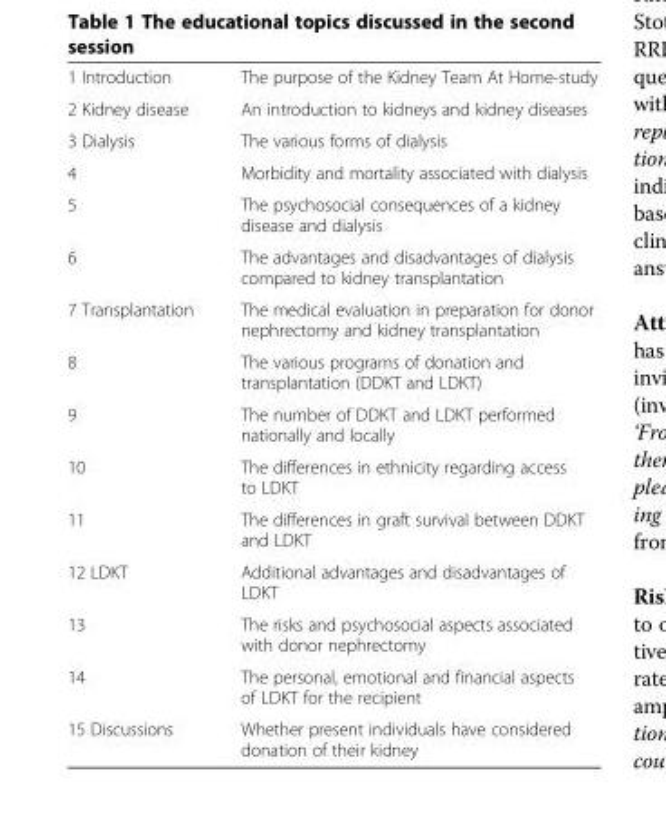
<table><tbody><tr><td>1 Introduction</td><td>The purpose of the Kidney Team At Home-study</td></tr><tr><td>2 Kidney disease</td><td>An introduction to kidneys and kidney diseases</td></tr><tr><td>3 Dialysis</td><td>The various forms of dialysis</td></tr><tr><td>4</td><td>Morbidity and mortality associated with dialysis</td></tr><tr><td>5</td><td>The psychosocial consequences of a kidney disease and dialysis</td></tr><tr><td>6</td><td>The advantages and disadvantages of dialysis compared to kidney transplantation</td></tr><tr><td>7 Transplantation</td><td>The medical evaluation in preparation for donor nephrectomy and kidney transplantation</td></tr><tr><td>8</td><td>The various programs of donation and transplantation (DDKT and LDKT)</td></tr><tr><td>9</td><td>The number of DDKT and LDKT performed nationally and locally</td></tr><tr><td>10</td><td>The differences in ethnicity regarding access to LDKT</td></tr><tr><td>11</td><td>The differences in graft survival between DDKT and LDKT</td></tr><tr><td>12 LDKT</td><td>Additional advantages and disadvantages of LDKT</td></tr><tr><td>13</td><td>The risks and psychosocial aspects associated with donor nephrectomy</td></tr><tr><td>14</td><td>The personal, emotional and financial aspects of LDKT for the recipient</td></tr><tr><td>15 Discussions</td><td>Whether present individuals have considered donation of their kidney</td></tr></tbody></table>